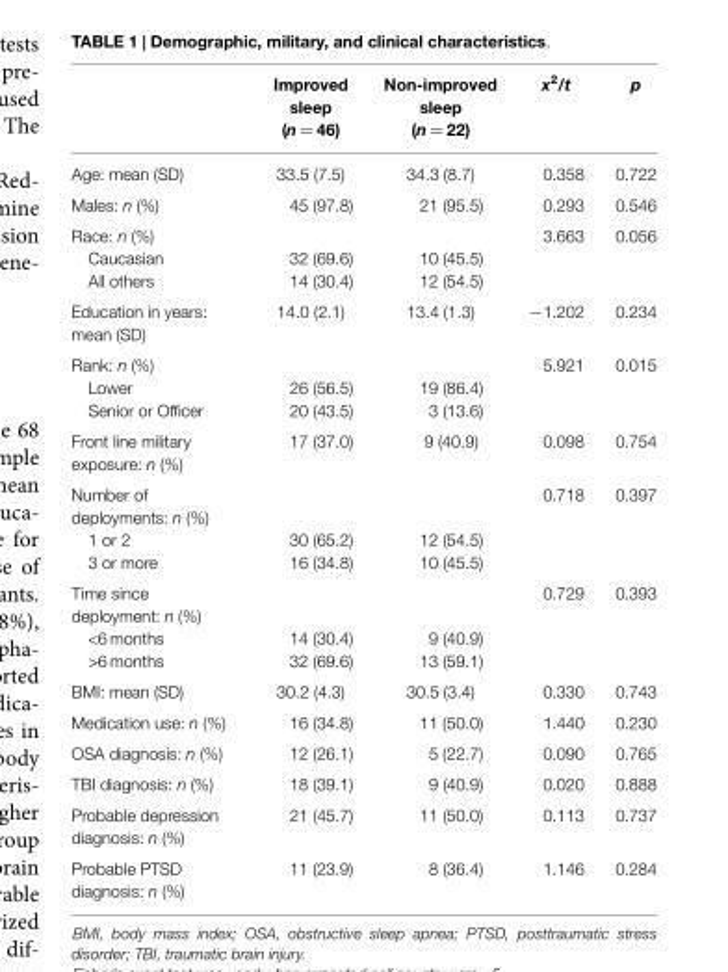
<table><thead><tr><td></td><td>Improved sleep (n = 46)</td><td>Non-improved sleep (n = 22)</td><td>x<sup>2</sup>/t</td><td>p</td></tr></thead><tbody><tr><td>Age: mean (SD)</td><td>33.5 (7.5)</td><td>34.3 (8.7)</td><td>0.358</td><td>0.722</td></tr><tr><td>Males: n (%)</td><td>45 (97.8)</td><td>21 (95.5)</td><td>0.293</td><td>0.546</td></tr><tr><td>Race: n (%)</td><td></td><td></td><td>3.663</td><td>0.056</td></tr><tr><td>Caucasian</td><td>32 (69.6)</td><td>10 (45.5)</td><td></td><td></td></tr><tr><td>All others</td><td>14 (30.4)</td><td>12 (54.5)</td><td></td><td></td></tr><tr><td>Education in years: mean (SD)</td><td>14.0 (2.1)</td><td>13.4 (1.3)</td><td>−1.202</td><td>0.234</td></tr><tr><td>Rank: n (%)</td><td></td><td></td><td>5.921</td><td>0.015</td></tr><tr><td>Lower</td><td>26 (56.5)</td><td>19 (86.4)</td><td></td><td></td></tr><tr><td>Senior or Officer</td><td>20 (43.5)</td><td>3 (13.6)</td><td></td><td></td></tr><tr><td>Front line military exposure: n (%)</td><td>17 (37.0)</td><td>9 (40.9)</td><td>0.098</td><td>0.754</td></tr><tr><td>Number of deployments: n (%)</td><td></td><td></td><td>0.718</td><td>0.397</td></tr><tr><td>1 or 2</td><td>30 (65.2)</td><td>12 (54.5)</td><td></td><td></td></tr><tr><td>3 or more</td><td>16 (34.8)</td><td>10 (45.5)</td><td></td><td></td></tr><tr><td>Time since deployment: n (%)</td><td></td><td></td><td>0.729</td><td>0.393</td></tr><tr><td>&lt;6 months</td><td>14 (30.4)</td><td>9 (40.9)</td><td></td><td></td></tr><tr><td>&gt;6 months</td><td>32 (69.6)</td><td>13 (59.1)</td><td></td><td></td></tr><tr><td>BMI: mean (SD)</td><td>30.2 (4.3)</td><td>30.5 (3.4)</td><td>0.330</td><td>0.743</td></tr><tr><td>Medication use: n (%)</td><td>16 (34.8)</td><td>11 (50.0)</td><td>1.440</td><td>0.230</td></tr><tr><td>OSA diagnosis: n (%)</td><td>12 (26.1)</td><td>5 (22.7)</td><td>0.090</td><td>0.765</td></tr><tr><td>TBI diagnosis: n (%)</td><td>18 (39.1)</td><td>9 (40.9)</td><td>0.020</td><td>0.888</td></tr><tr><td>Probable depression diagnosis: n (%)</td><td>21 (45.7)</td><td>11 (50.0)</td><td>0.113</td><td>0.737</td></tr><tr><td>Probable PTSD diagnosis: n (%)</td><td>11 (23.9)</td><td>8 (36.4)</td><td>1.146</td><td>0.284</td></tr></tbody></table>